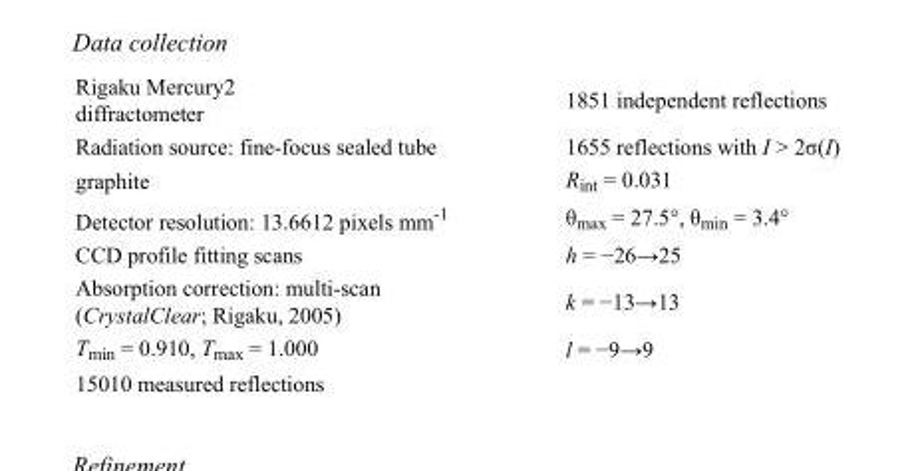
<table><tbody><tr><td>Rigaku Mercury2 diffractometer</td><td>1851 independent reflections</td></tr><tr><td>Radiation source: fine-focus sealed tube</td><td>1655 reflections with I &gt; 2σ(I)</td></tr><tr><td>graphite</td><td>R<sub>int</sub> = 0.031</td></tr><tr><td>Detector resolution: 13.6612 pixels mm<sup>-1</sup></td><td>θ<sub>max</sub> = 27.5°, θ<sub>min</sub> = 3.4°</td></tr><tr><td>CCD profile fitting scans</td><td>h = −26→25</td></tr><tr><td>Absorption correction: multi-scan (CrystalClear; Rigaku, 2005)</td><td>k = −13→13</td></tr><tr><td>T<sub>min</sub> = 0.910, T<sub>max</sub> = 1.000</td><td>l = −9→9</td></tr><tr><td>15010 measured reflections</td><td></td></tr></tbody></table>